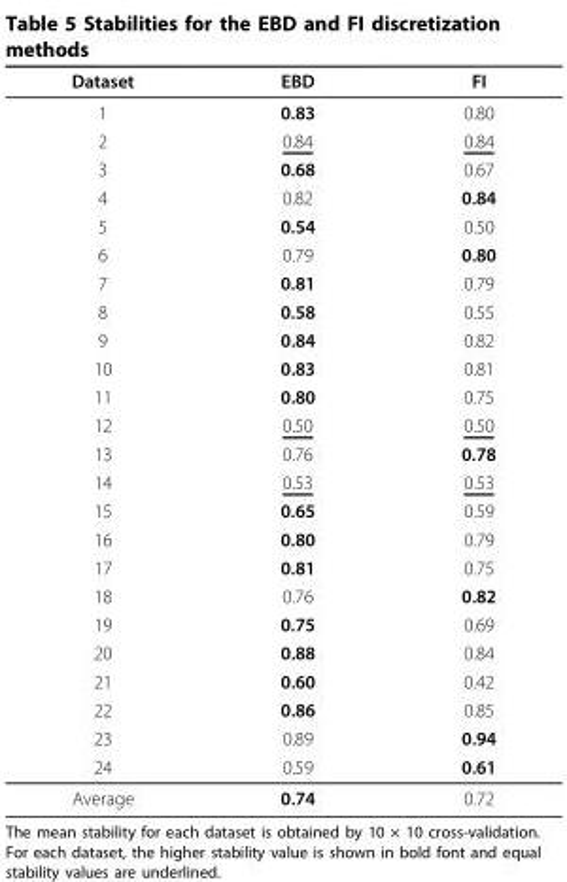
<table><thead><tr><td>Dataset</td><td>EBD</td><td>FI</td></tr></thead><tbody><tr><td>1</td><td>0.83</td><td>0.80</td></tr><tr><td>2</td><td>0.84</td><td>0.84</td></tr><tr><td>3</td><td>0.68</td><td>0.67</td></tr><tr><td>4</td><td>0.82</td><td>0.84</td></tr><tr><td>5</td><td>0.54</td><td>0.50</td></tr><tr><td>6</td><td>0.79</td><td>0.80</td></tr><tr><td>7</td><td>0.81</td><td>0.79</td></tr><tr><td>8</td><td>0.58</td><td>0.55</td></tr><tr><td>9</td><td>0.84</td><td>0.82</td></tr><tr><td>10</td><td>0.83</td><td>0.81</td></tr><tr><td>11</td><td>0.80</td><td>0.75</td></tr><tr><td>12</td><td>0.50</td><td>0.50</td></tr><tr><td>13</td><td>0.76</td><td>0.78</td></tr><tr><td>14</td><td>0.53</td><td>0.53</td></tr><tr><td>15</td><td>0.65</td><td>0.59</td></tr><tr><td>16</td><td>0.80</td><td>0.79</td></tr><tr><td>17</td><td>0.81</td><td>0.75</td></tr><tr><td>18</td><td>0.76</td><td>0.82</td></tr><tr><td>19</td><td>0.75</td><td>0.69</td></tr><tr><td>20</td><td>0.88</td><td>0.84</td></tr><tr><td>21</td><td>0.60</td><td>0.42</td></tr><tr><td>22</td><td>0.86</td><td>0.85</td></tr><tr><td>23</td><td>0.89</td><td>0.94</td></tr><tr><td>24</td><td>0.59</td><td>0.61</td></tr><tr><td>Average</td><td>0.74</td><td>0.72</td></tr></tbody></table>